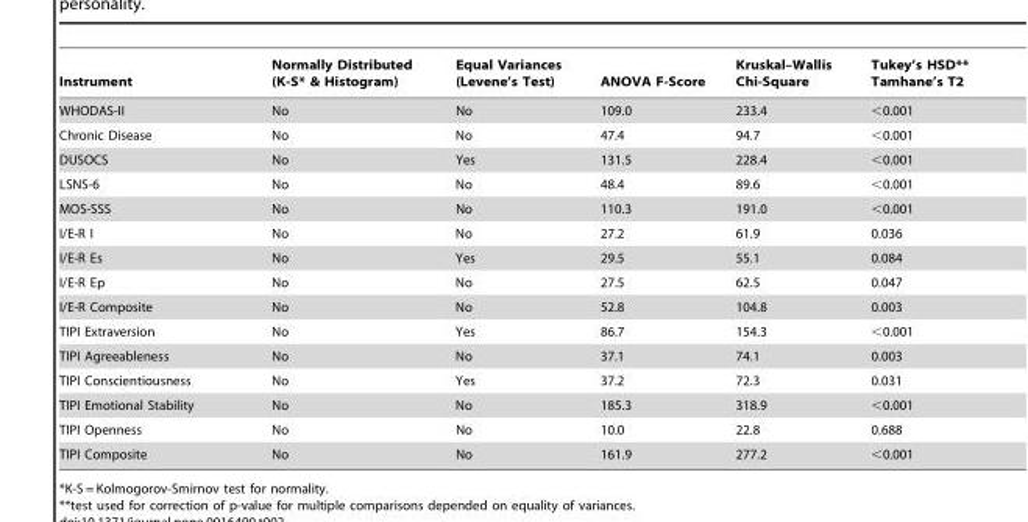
<table><thead><tr><td>Instrument</td><td>Normally Distributed (K-S* &amp; Histogram)</td><td>Equal Variances (Levene’s Test)</td><td>ANOVA F-Score</td><td>Kruskal–Wallis Chi-Square</td><td>Tukey’s HSD** Tamhane’s T2</td></tr></thead><tbody><tr><td>WHODAS-II</td><td>No</td><td>No</td><td>109.0</td><td>233.4</td><td>&lt;0.001</td></tr><tr><td>Chronic Disease</td><td>No</td><td>No</td><td>47.4</td><td>94.7</td><td>&lt;0.001</td></tr><tr><td>DUSOCS</td><td>No</td><td>Yes</td><td>131.5</td><td>228.4</td><td>&lt;0.001</td></tr><tr><td>LSNS-6</td><td>No</td><td>No</td><td>48.4</td><td>89.6</td><td>&lt;0.001</td></tr><tr><td>MOS-SSS</td><td>No</td><td>No</td><td>110.3</td><td>191.0</td><td>&lt;0.001</td></tr><tr><td>I/E-R I</td><td>No</td><td>No</td><td>27.2</td><td>61.9</td><td>0.036</td></tr><tr><td>I/E-R Es</td><td>No</td><td>Yes</td><td>29.5</td><td>55.1</td><td>0.084</td></tr><tr><td>I/E-R Ep</td><td>No</td><td>No</td><td>27.5</td><td>62.5</td><td>0.047</td></tr><tr><td>I/E-R Composite</td><td>No</td><td>No</td><td>52.8</td><td>104.8</td><td>0.003</td></tr><tr><td>TIPI Extraversion</td><td>No</td><td>Yes</td><td>86.7</td><td>154.3</td><td>&lt;0.001</td></tr><tr><td>TIPI Agreeableness</td><td>No</td><td>No</td><td>37.1</td><td>74.1</td><td>0.003</td></tr><tr><td>TIPI Conscientiousness</td><td>No</td><td>Yes</td><td>37.2</td><td>72.3</td><td>0.031</td></tr><tr><td>TIPI Emotional Stability</td><td>No</td><td>No</td><td>185.3</td><td>318.9</td><td>&lt;0.001</td></tr><tr><td>TIPI Openness</td><td>No</td><td>No</td><td>10.0</td><td>22.8</td><td>0.688</td></tr><tr><td>TIPI Composite</td><td>No</td><td>No</td><td>161.9</td><td>277.2</td><td>&lt;0.001</td></tr></tbody></table>